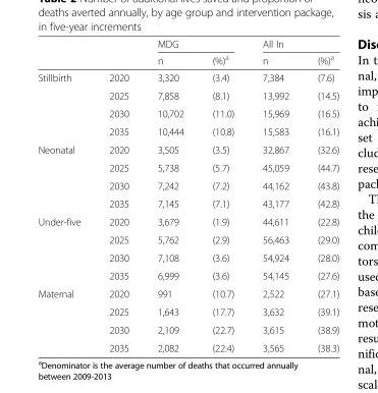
<table><thead><tr><td rowspan="2"></td><td rowspan="2"></td><td colspan="2">MDG</td><td colspan="2">All In</td></tr><tr><td>n</td><td>(%)<sup>a</sup></td><td>n</td><td>(%)<sup>a</sup></td></tr></thead><tbody><tr><td rowspan="4">Stillbirth</td><td>2020</td><td>3,320</td><td>(3.4)</td><td>7,384</td><td>(7.6)</td></tr><tr><td>2025</td><td>7,858</td><td>(8.1)</td><td>13,992</td><td>(14.5)</td></tr><tr><td>2030</td><td>10,702</td><td>(11.0)</td><td>15,969</td><td>(16.5)</td></tr><tr><td>2035</td><td>10,444</td><td>(10.8)</td><td>15,583</td><td>(16.1)</td></tr><tr><td rowspan="4">Neonatal</td><td>2020</td><td>3,505</td><td>(3.5)</td><td>32,867</td><td>(32.6)</td></tr><tr><td>2025</td><td>5,738</td><td>(5.7)</td><td>45,059</td><td>(44.7)</td></tr><tr><td>2030</td><td>7,242</td><td>(7.2)</td><td>44,162</td><td>(43.8)</td></tr><tr><td>2035</td><td>7,145</td><td>(7.1)</td><td>43,177</td><td>(42.8)</td></tr><tr><td rowspan="4">Under-five</td><td>2020</td><td>3,679</td><td>(1.9)</td><td>44,611</td><td>(22.8)</td></tr><tr><td>2025</td><td>5,762</td><td>(2.9)</td><td>56,463</td><td>(29.0)</td></tr><tr><td>2030</td><td>7,108</td><td>(3.6)</td><td>54,924</td><td>(28.0)</td></tr><tr><td>2035</td><td>6,999</td><td>(3.6)</td><td>54,145</td><td>(27.6)</td></tr><tr><td rowspan="4">Maternal</td><td>2020</td><td>991</td><td>(10.7)</td><td>2,522</td><td>(27.1)</td></tr><tr><td>2025</td><td>1,643</td><td>(17.7)</td><td>3,632</td><td>(39.1)</td></tr><tr><td>2030</td><td>2,109</td><td>(22.7)</td><td>3,615</td><td>(38.9)</td></tr><tr><td>2035</td><td>2,082</td><td>(22.4)</td><td>3,565</td><td>(38.3)</td></tr></tbody></table>